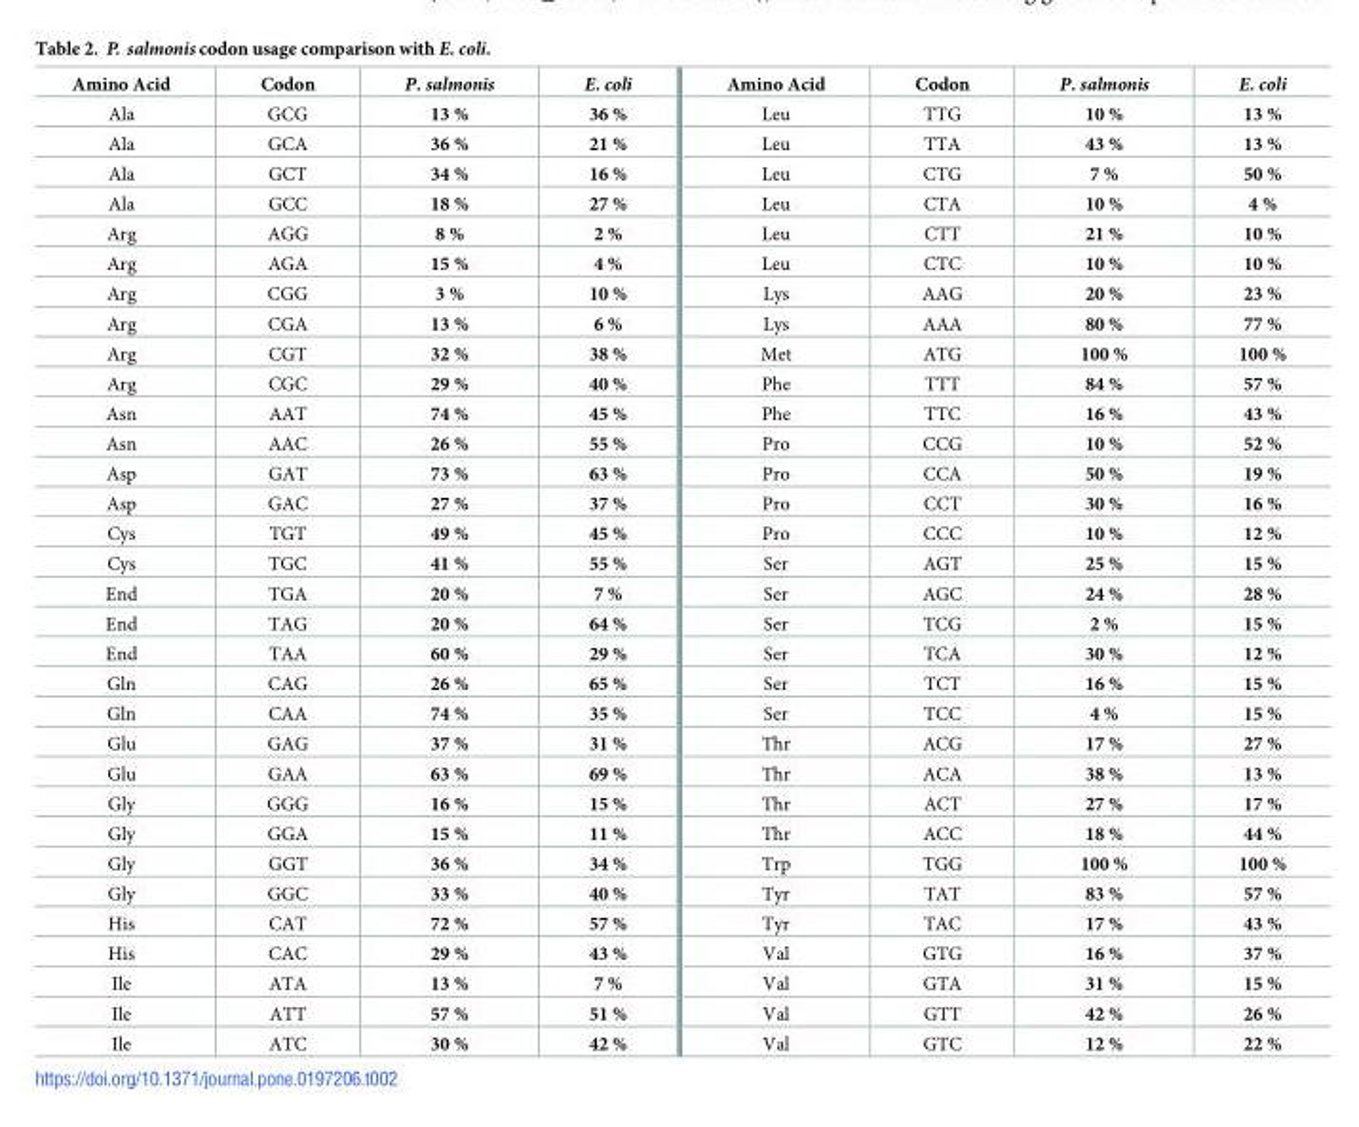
<table><thead><tr><td>Amino Acid</td><td>Codon</td><td>P. salmonis</td><td>E. coli</td><td>Amino Acid</td><td>Codon</td><td>P. salmonis</td><td>E. coli</td></tr></thead><tbody><tr><td>Ala</td><td>GCG</td><td>13 %</td><td>36 %</td><td>Leu</td><td>TTG</td><td>10 %</td><td>13 %</td></tr><tr><td>Ala</td><td>GCA</td><td>36 %</td><td>21 %</td><td>Leu</td><td>TTA</td><td>43 %</td><td>13 %</td></tr><tr><td>Ala</td><td>GCT</td><td>34 %</td><td>16 %</td><td>Leu</td><td>CTG</td><td>7 %</td><td>50 %</td></tr><tr><td>Ala</td><td>GCC</td><td>18 %</td><td>27 %</td><td>Leu</td><td>CTA</td><td>10 %</td><td>4 %</td></tr><tr><td>Arg</td><td>AGG</td><td>8 %</td><td>2 %</td><td>Leu</td><td>CTT</td><td>21 %</td><td>10 %</td></tr><tr><td>Arg</td><td>AGA</td><td>15 %</td><td>4 %</td><td>Leu</td><td>CTC</td><td>10 %</td><td>10 %</td></tr><tr><td>Arg</td><td>CGG</td><td>3 %</td><td>10 %</td><td>Lys</td><td>AAG</td><td>20 %</td><td>23 %</td></tr><tr><td>Arg</td><td>CGA</td><td>13 %</td><td>6 %</td><td>Lys</td><td>AAA</td><td>80 %</td><td>77 %</td></tr><tr><td>Arg</td><td>CGT</td><td>32 %</td><td>38 %</td><td>Met</td><td>ATG</td><td>100 %</td><td>100 %</td></tr><tr><td>Arg</td><td>CGC</td><td>29 %</td><td>40 %</td><td>Phe</td><td>TTT</td><td>84 %</td><td>57 %</td></tr><tr><td>Asn</td><td>AAT</td><td>74 %</td><td>45 %</td><td>Phe</td><td>TTC</td><td>16 %</td><td>43 %</td></tr><tr><td>Asn</td><td>AAC</td><td>26 %</td><td>55 %</td><td>Pro</td><td>CCG</td><td>10 %</td><td>52 %</td></tr><tr><td>Asp</td><td>GAT</td><td>73 %</td><td>63 %</td><td>Pro</td><td>CCA</td><td>50 %</td><td>19 %</td></tr><tr><td>Asp</td><td>GAC</td><td>27 %</td><td>37 %</td><td>Pro</td><td>CCT</td><td>30 %</td><td>16 %</td></tr><tr><td>Cys</td><td>TGT</td><td>49 %</td><td>45 %</td><td>Pro</td><td>CCC</td><td>10 %</td><td>12 %</td></tr><tr><td>Cys</td><td>TGC</td><td>41 %</td><td>55 %</td><td>Ser</td><td>AGT</td><td>25 %</td><td>15 %</td></tr><tr><td>End</td><td>TGA</td><td>20 %</td><td>7 %</td><td>Ser</td><td>AGC</td><td>24 %</td><td>28 %</td></tr><tr><td>End</td><td>TAG</td><td>20 %</td><td>64 %</td><td>Ser</td><td>TCG</td><td>2 %</td><td>15 %</td></tr><tr><td>End</td><td>TAA</td><td>60 %</td><td>29 %</td><td>Ser</td><td>TCA</td><td>30 %</td><td>12 %</td></tr><tr><td>Gln</td><td>CAG</td><td>26 %</td><td>65 %</td><td>Ser</td><td>TCT</td><td>16 %</td><td>15 %</td></tr><tr><td>Gln</td><td>CAA</td><td>74 %</td><td>35 %</td><td>Ser</td><td>TCC</td><td>4 %</td><td>15 %</td></tr><tr><td>Glu</td><td>GAG</td><td>37 %</td><td>31 %</td><td>Thr</td><td>ACG</td><td>17 %</td><td>27 %</td></tr><tr><td>Glu</td><td>GAA</td><td>63 %</td><td>69 %</td><td>Thr</td><td>ACA</td><td>38 %</td><td>13 %</td></tr><tr><td>Gly</td><td>GGG</td><td>16 %</td><td>15 %</td><td>Thr</td><td>ACT</td><td>27 %</td><td>17 %</td></tr><tr><td>Gly</td><td>GGA</td><td>15 %</td><td>11 %</td><td>Thr</td><td>ACC</td><td>18 %</td><td>44 %</td></tr><tr><td>Gly</td><td>GGT</td><td>36 %</td><td>34 %</td><td>Trp</td><td>TGG</td><td>100 %</td><td>100 %</td></tr><tr><td>Gly</td><td>GGC</td><td>33 %</td><td>40 %</td><td>Tyr</td><td>TAT</td><td>83 %</td><td>57 %</td></tr><tr><td>His</td><td>CAT</td><td>72 %</td><td>57 %</td><td>Tyr</td><td>TAC</td><td>17 %</td><td>43 %</td></tr><tr><td>His</td><td>CAC</td><td>29 %</td><td>43 %</td><td>Val</td><td>GTG</td><td>16 %</td><td>37 %</td></tr><tr><td>Ile</td><td>ATA</td><td>13 %</td><td>7 %</td><td>Val</td><td>GTA</td><td>31 %</td><td>15 %</td></tr><tr><td>Ile</td><td>ATT</td><td>57 %</td><td>51 %</td><td>Val</td><td>GTT</td><td>42 %</td><td>26 %</td></tr><tr><td>Ile</td><td>ATC</td><td>30 %</td><td>42 %</td><td>Val</td><td>GTC</td><td>12 %</td><td>22 %</td></tr></tbody></table>